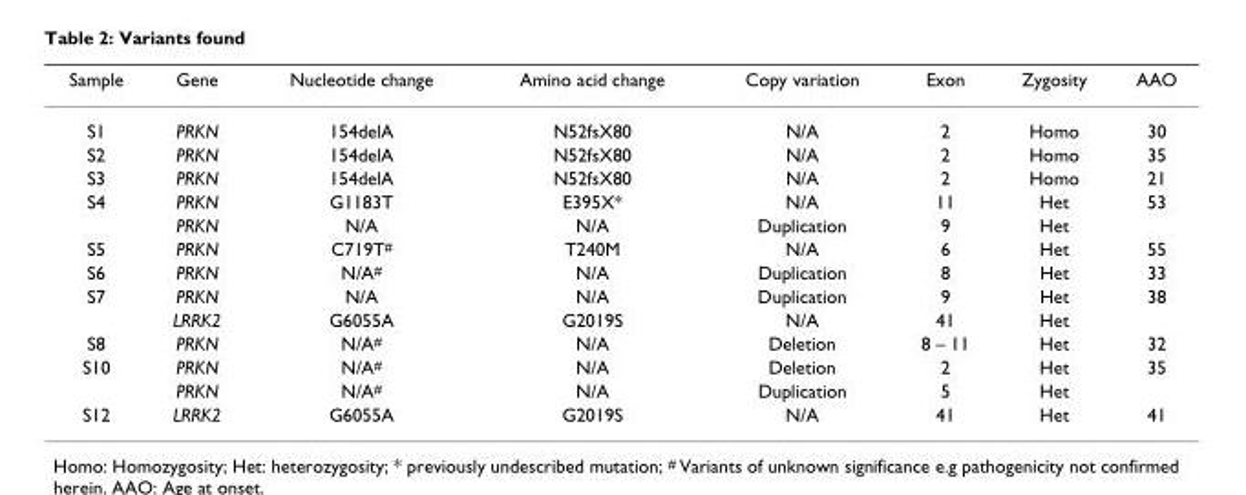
<table><thead><tr><td>Sample</td><td>Gene</td><td>Nucleotide change</td><td>Amino acid change</td><td>Copy variation</td><td>Exon</td><td>Zygosity</td><td>AAO</td></tr></thead><tbody><tr><td>S1</td><td>PRKN</td><td>154delA</td><td>N52fsX80</td><td>N/A</td><td>2</td><td>Homo</td><td>30</td></tr><tr><td>S2</td><td>PRKN</td><td>154delA</td><td>N52fsX80</td><td>N/A</td><td>2</td><td>Homo</td><td>35</td></tr><tr><td>S3</td><td>PRKN</td><td>154delA</td><td>N52fsX80</td><td>N/A</td><td>2</td><td>Homo</td><td>21</td></tr><tr><td rowspan="2">S4</td><td>PRKN</td><td>G1183T</td><td>E395X*</td><td>N/A</td><td>11</td><td>Het</td><td>53</td></tr><tr><td>PRKN</td><td>N/A</td><td>N/A</td><td>Duplication</td><td>9</td><td>Het</td><td></td></tr><tr><td>S5</td><td>PRKN</td><td>C719T<sup>#</sup></td><td>T240M</td><td>N/A</td><td>6</td><td>Het</td><td>55</td></tr><tr><td>S6</td><td>PRKN</td><td>N/A<sup>#</sup></td><td>N/A</td><td>Duplication</td><td>8</td><td>Het</td><td>33</td></tr><tr><td rowspan="2">S7</td><td>PRKN</td><td>N/A</td><td>N/A</td><td>Duplication</td><td>9</td><td>Het</td><td>38</td></tr><tr><td>LRRK2</td><td>G6055A</td><td>G2019S</td><td>N/A</td><td>41</td><td>Het</td><td></td></tr><tr><td>S8</td><td>PRKN</td><td>N/A<sup>#</sup></td><td>N/A</td><td>Deletion</td><td>8 – 11</td><td>Het</td><td>32</td></tr><tr><td rowspan="2">S10</td><td>PRKN</td><td>N/A<sup>#</sup></td><td>N/A</td><td>Deletion</td><td>2</td><td>Het</td><td>35</td></tr><tr><td>PRKN</td><td>N/A<sup>#</sup></td><td>N/A</td><td>Duplication</td><td>5</td><td>Het</td><td></td></tr><tr><td>S12</td><td>LRRK2</td><td>G6055A</td><td>G2019S</td><td>N/A</td><td>41</td><td>Het</td><td>41</td></tr></tbody></table>